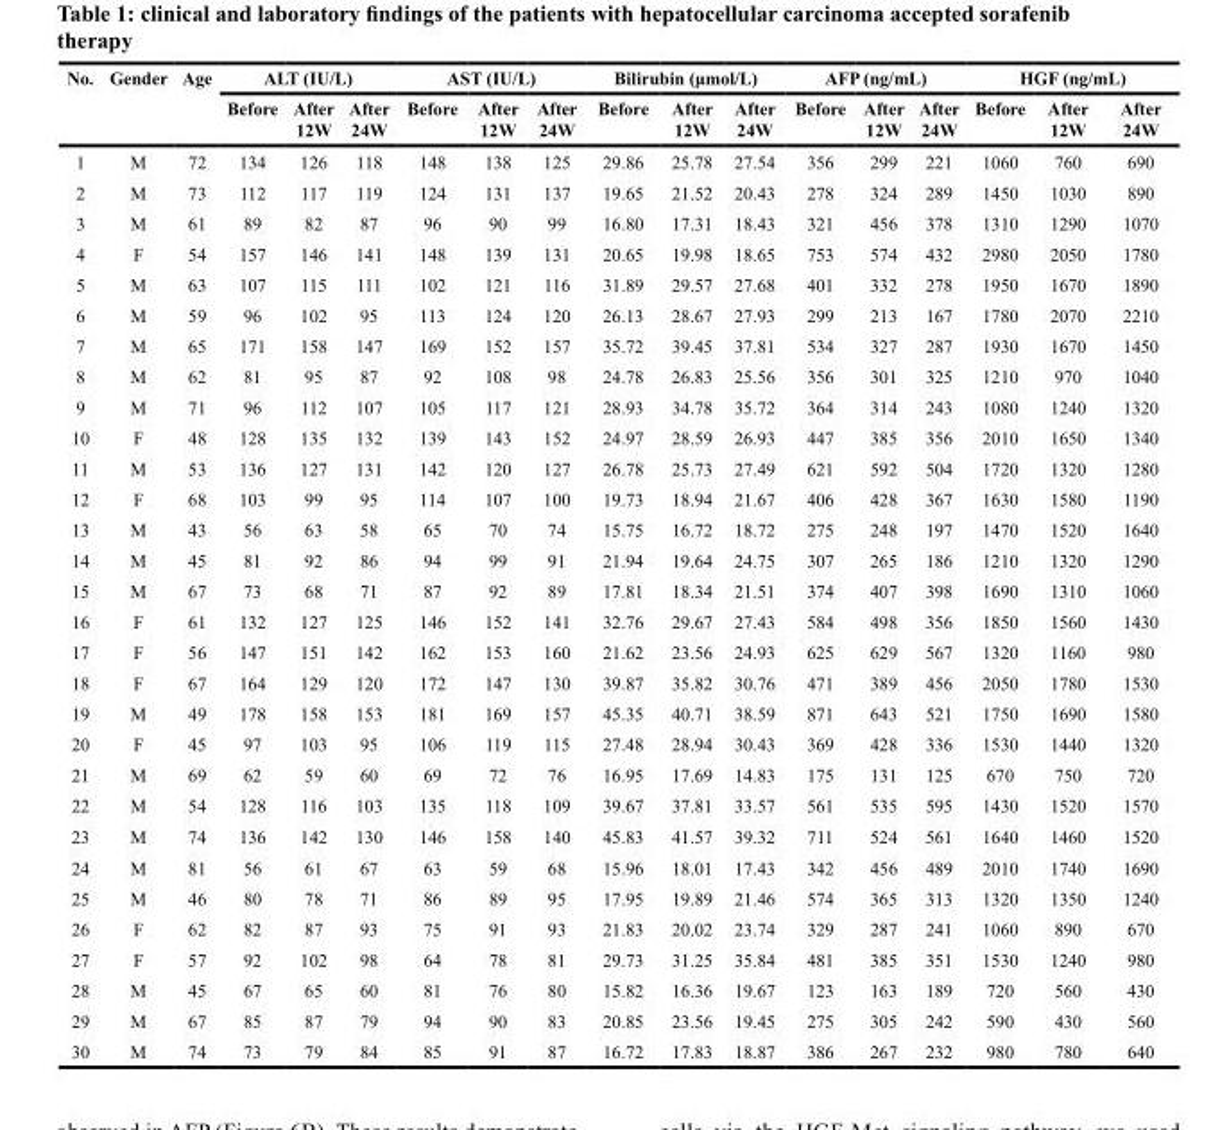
<table><thead><tr><td rowspan="2">No.</td><td rowspan="2">Gender</td><td rowspan="2">Age</td><td colspan="3">ALT (IU/L)</td><td colspan="3">AST (IU/L)</td><td colspan="3">Bilirubin (μmol/L)</td><td colspan="3">AFP (ng/mL)</td><td colspan="3">HGF (ng/mL)</td></tr><tr><td>Before</td><td>After 12W</td><td>After 24W</td><td>Before</td><td>After 12W</td><td>After 24W</td><td>Before</td><td>After 12W</td><td>After 24W</td><td>Before</td><td>After 12W</td><td>After 24W</td><td>Before</td><td>After 12W</td><td>After 24W</td></tr></thead><tbody><tr><td>1</td><td>M</td><td>72</td><td>134</td><td>126</td><td>118</td><td>148</td><td>138</td><td>125</td><td>29.86</td><td>25.78</td><td>27.54</td><td>356</td><td>299</td><td>221</td><td>1060</td><td>760</td><td>690</td></tr><tr><td>2</td><td>M</td><td>73</td><td>112</td><td>117</td><td>119</td><td>124</td><td>131</td><td>137</td><td>19.65</td><td>21.52</td><td>20.43</td><td>278</td><td>324</td><td>289</td><td>1450</td><td>1030</td><td>890</td></tr><tr><td>3</td><td>M</td><td>61</td><td>89</td><td>82</td><td>87</td><td>96</td><td>90</td><td>99</td><td>16.80</td><td>17.31</td><td>18.43</td><td>321</td><td>456</td><td>378</td><td>1310</td><td>1290</td><td>1070</td></tr><tr><td>4</td><td>F</td><td>54</td><td>157</td><td>146</td><td>141</td><td>148</td><td>139</td><td>131</td><td>20.65</td><td>19.98</td><td>18.65</td><td>753</td><td>574</td><td>432</td><td>2980</td><td>2050</td><td>1780</td></tr><tr><td>5</td><td>M</td><td>63</td><td>107</td><td>115</td><td>111</td><td>102</td><td>121</td><td>116</td><td>31.89</td><td>29.57</td><td>27.68</td><td>401</td><td>332</td><td>278</td><td>1950</td><td>1670</td><td>1890</td></tr><tr><td>6</td><td>M</td><td>59</td><td>96</td><td>102</td><td>95</td><td>113</td><td>124</td><td>120</td><td>26.13</td><td>28.67</td><td>27.93</td><td>299</td><td>213</td><td>167</td><td>1780</td><td>2070</td><td>2210</td></tr><tr><td>7</td><td>M</td><td>65</td><td>171</td><td>158</td><td>147</td><td>169</td><td>152</td><td>157</td><td>35.72</td><td>39.45</td><td>37.81</td><td>534</td><td>327</td><td>287</td><td>1930</td><td>1670</td><td>1450</td></tr><tr><td>8</td><td>M</td><td>62</td><td>81</td><td>95</td><td>87</td><td>92</td><td>108</td><td>98</td><td>24.78</td><td>26.83</td><td>25.56</td><td>356</td><td>301</td><td>325</td><td>1210</td><td>970</td><td>1040</td></tr><tr><td>9</td><td>M</td><td>71</td><td>96</td><td>112</td><td>107</td><td>105</td><td>117</td><td>121</td><td>28.93</td><td>34.78</td><td>35.72</td><td>364</td><td>314</td><td>243</td><td>1080</td><td>1240</td><td>1320</td></tr><tr><td>10</td><td>F</td><td>48</td><td>128</td><td>135</td><td>132</td><td>139</td><td>143</td><td>152</td><td>24.97</td><td>28.59</td><td>26.93</td><td>447</td><td>385</td><td>356</td><td>2010</td><td>1650</td><td>1340</td></tr><tr><td>11</td><td>M</td><td>53</td><td>136</td><td>127</td><td>131</td><td>142</td><td>120</td><td>127</td><td>26.78</td><td>25.73</td><td>27.49</td><td>621</td><td>592</td><td>504</td><td>1720</td><td>1320</td><td>1280</td></tr><tr><td>12</td><td>F</td><td>68</td><td>103</td><td>99</td><td>95</td><td>114</td><td>107</td><td>100</td><td>19.73</td><td>18.94</td><td>21.67</td><td>406</td><td>428</td><td>367</td><td>1630</td><td>1580</td><td>1190</td></tr><tr><td>13</td><td>M</td><td>43</td><td>56</td><td>63</td><td>58</td><td>65</td><td>70</td><td>74</td><td>15.75</td><td>16.72</td><td>18.72</td><td>275</td><td>248</td><td>197</td><td>1470</td><td>1520</td><td>1640</td></tr><tr><td>14</td><td>M</td><td>45</td><td>81</td><td>92</td><td>86</td><td>94</td><td>99</td><td>91</td><td>21.94</td><td>19.64</td><td>24.75</td><td>307</td><td>265</td><td>186</td><td>1210</td><td>1320</td><td>1290</td></tr><tr><td>15</td><td>M</td><td>67</td><td>73</td><td>68</td><td>71</td><td>87</td><td>92</td><td>89</td><td>17.81</td><td>18.34</td><td>21.51</td><td>374</td><td>407</td><td>398</td><td>1690</td><td>1310</td><td>1060</td></tr><tr><td>16</td><td>F</td><td>61</td><td>132</td><td>127</td><td>125</td><td>146</td><td>152</td><td>141</td><td>32.76</td><td>29.67</td><td>27.43</td><td>584</td><td>498</td><td>356</td><td>1850</td><td>1560</td><td>1430</td></tr><tr><td>17</td><td>F</td><td>56</td><td>147</td><td>151</td><td>142</td><td>162</td><td>153</td><td>160</td><td>21.62</td><td>23.56</td><td>24.93</td><td>625</td><td>629</td><td>567</td><td>1320</td><td>1160</td><td>980</td></tr><tr><td>18</td><td>F</td><td>67</td><td>164</td><td>129</td><td>120</td><td>172</td><td>147</td><td>130</td><td>39.87</td><td>35.82</td><td>30.76</td><td>471</td><td>389</td><td>456</td><td>2050</td><td>1780</td><td>1530</td></tr><tr><td>19</td><td>M</td><td>49</td><td>178</td><td>158</td><td>153</td><td>181</td><td>169</td><td>157</td><td>45.35</td><td>40.71</td><td>38.59</td><td>871</td><td>643</td><td>521</td><td>1750</td><td>1690</td><td>1580</td></tr><tr><td>20</td><td>F</td><td>45</td><td>97</td><td>103</td><td>95</td><td>106</td><td>119</td><td>115</td><td>27.48</td><td>28.94</td><td>30.43</td><td>369</td><td>428</td><td>336</td><td>1530</td><td>1440</td><td>1320</td></tr><tr><td>21</td><td>M</td><td>69</td><td>62</td><td>59</td><td>60</td><td>69</td><td>72</td><td>76</td><td>16.95</td><td>17.69</td><td>14.83</td><td>175</td><td>131</td><td>125</td><td>670</td><td>750</td><td>720</td></tr><tr><td>22</td><td>M</td><td>54</td><td>128</td><td>116</td><td>103</td><td>135</td><td>118</td><td>109</td><td>39.67</td><td>37.81</td><td>33.57</td><td>561</td><td>535</td><td>595</td><td>1430</td><td>1520</td><td>1570</td></tr><tr><td>23</td><td>M</td><td>74</td><td>136</td><td>142</td><td>130</td><td>146</td><td>158</td><td>140</td><td>45.83</td><td>41.57</td><td>39.32</td><td>711</td><td>524</td><td>561</td><td>1640</td><td>1460</td><td>1520</td></tr><tr><td>24</td><td>M</td><td>81</td><td>56</td><td>61</td><td>67</td><td>63</td><td>59</td><td>68</td><td>15.96</td><td>18.01</td><td>17.43</td><td>342</td><td>456</td><td>489</td><td>2010</td><td>1740</td><td>1690</td></tr><tr><td>25</td><td>M</td><td>46</td><td>80</td><td>78</td><td>71</td><td>86</td><td>89</td><td>95</td><td>17.95</td><td>19.89</td><td>21.46</td><td>574</td><td>365</td><td>313</td><td>1320</td><td>1350</td><td>1240</td></tr><tr><td>26</td><td>F</td><td>62</td><td>82</td><td>87</td><td>93</td><td>75</td><td>91</td><td>93</td><td>21.83</td><td>20.02</td><td>23.74</td><td>329</td><td>287</td><td>241</td><td>1060</td><td>890</td><td>670</td></tr><tr><td>27</td><td>F</td><td>57</td><td>92</td><td>102</td><td>98</td><td>64</td><td>78</td><td>81</td><td>29.73</td><td>31.25</td><td>35.84</td><td>481</td><td>385</td><td>351</td><td>1530</td><td>1240</td><td>980</td></tr><tr><td>28</td><td>M</td><td>45</td><td>67</td><td>65</td><td>60</td><td>81</td><td>76</td><td>80</td><td>15.82</td><td>16.36</td><td>19.67</td><td>123</td><td>163</td><td>189</td><td>720</td><td>560</td><td>430</td></tr><tr><td>29</td><td>M</td><td>67</td><td>85</td><td>87</td><td>79</td><td>94</td><td>90</td><td>83</td><td>20.85</td><td>23.56</td><td>19.45</td><td>275</td><td>305</td><td>242</td><td>590</td><td>430</td><td>560</td></tr><tr><td>30</td><td>M</td><td>74</td><td>73</td><td>79</td><td>84</td><td>85</td><td>91</td><td>87</td><td>16.72</td><td>17.83</td><td>18.87</td><td>386</td><td>267</td><td>232</td><td>980</td><td>780</td><td>640</td></tr></tbody></table>